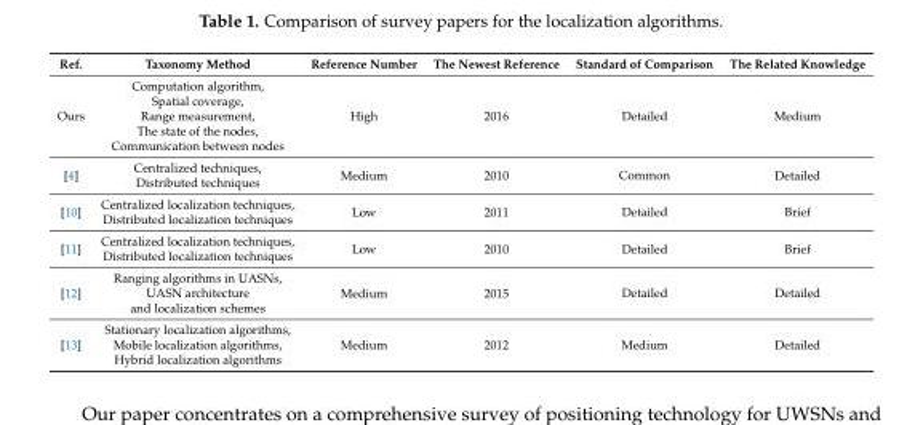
<table><thead><tr><td>Ref.</td><td>Taxonomy Method</td><td>Reference Number</td><td>The Newest Reference</td><td>Standard of Comparison</td><td>The Related Knowledge</td></tr></thead><tbody><tr><td>Ours</td><td>Computation algorithm, Spatial coverage, Range measurement, The state of the nodes, Communication between nodes</td><td>High</td><td>2016</td><td>Detailed</td><td>Medium</td></tr><tr><td>[4]</td><td>Centralized techniques, Distributed techniques</td><td>Medium</td><td>2010</td><td>Common</td><td>Detailed</td></tr><tr><td>[10]</td><td>Centralized localization techniques, Distributed localization techniques</td><td>Low</td><td>2011</td><td>Detailed</td><td>Brief</td></tr><tr><td>[11]</td><td>Centralized localization techniques, Distributed localization techniques</td><td>Low</td><td>2010</td><td>Detailed</td><td>Brief</td></tr><tr><td>[12]</td><td>Ranging algorithms in UASNs, UASN architecture and localization schemes</td><td>Medium</td><td>2015</td><td>Detailed</td><td>Detailed</td></tr><tr><td>[13]</td><td>Stationary localization algorithms, Mobile localization algorithms, Hybrid localization algorithms</td><td>Medium</td><td>2012</td><td>Medium</td><td>Detailed</td></tr></tbody></table>